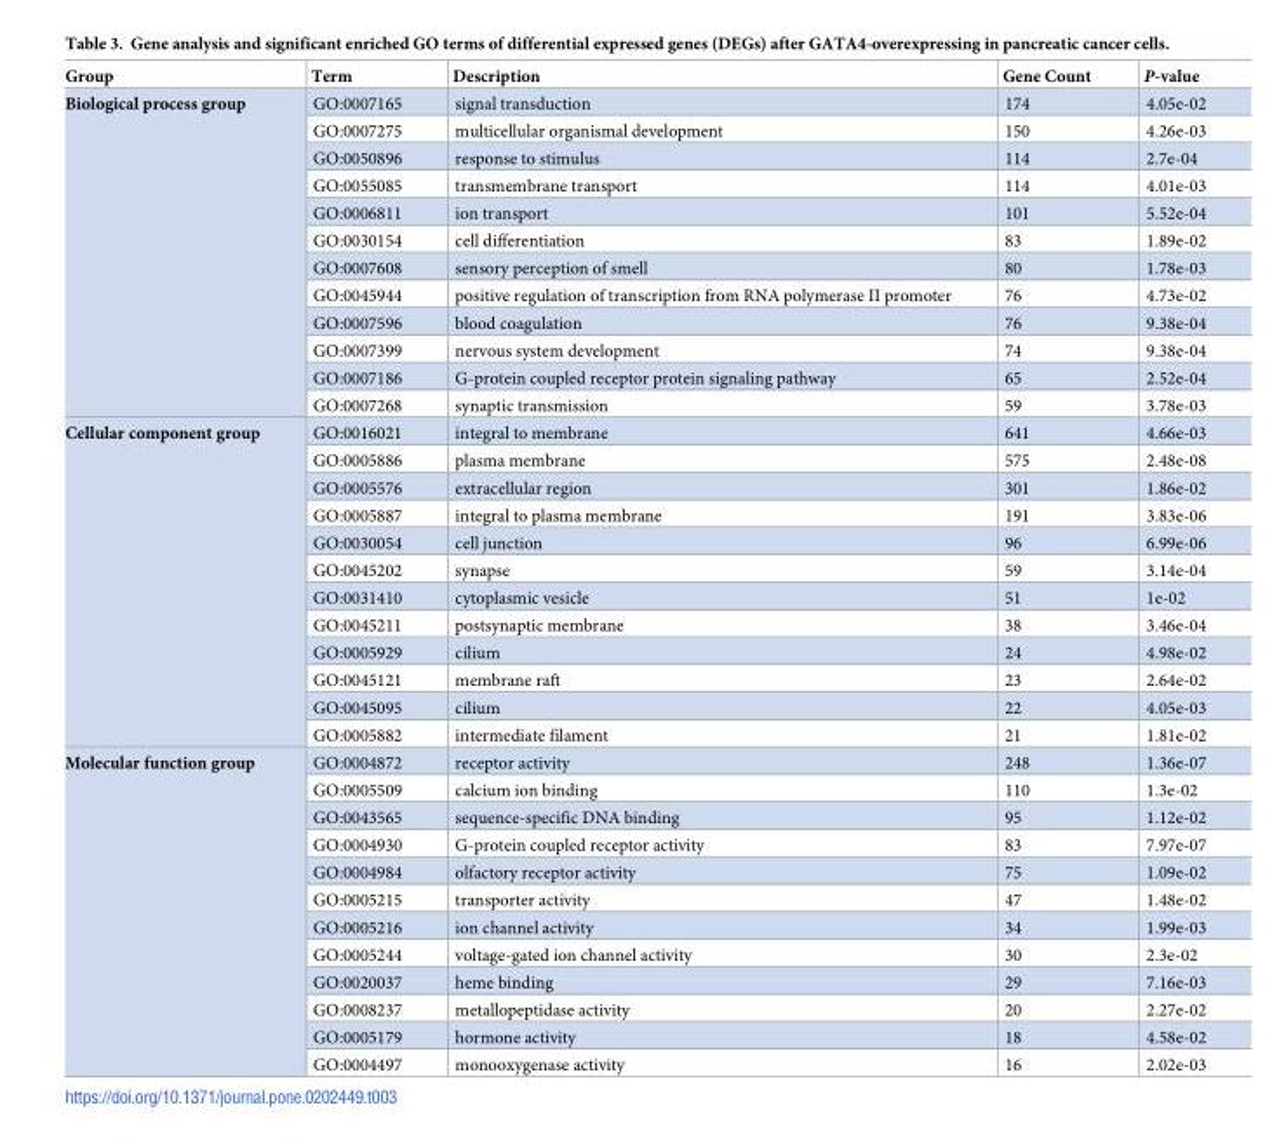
<table><thead><tr><td>Group</td><td>Term</td><td>Description</td><td>Gene Count</td><td>P-value</td></tr></thead><tbody><tr><td rowspan="12">Biological process group</td><td>GO:0007165</td><td>signal transduction</td><td>174</td><td>4.05e-02</td></tr><tr><td>GO:0007275</td><td>multicellular organismal development</td><td>150</td><td>4.26e-03</td></tr><tr><td>GO:0050896</td><td>response to stimulus</td><td>114</td><td>2.7e-04</td></tr><tr><td>GO:0055085</td><td>transmembrane transport</td><td>114</td><td>4.01e-03</td></tr><tr><td>GO:0006811</td><td>ion transport</td><td>101</td><td>5.52e-04</td></tr><tr><td>GO:0030154</td><td>cell differentiation</td><td>83</td><td>1.89e-02</td></tr><tr><td>GO:0007608</td><td>sensory perception of smell</td><td>80</td><td>1.78e-03</td></tr><tr><td>GO:0045944</td><td>positive regulation of transcription from RNA polymerase II promoter</td><td>76</td><td>4.73e-02</td></tr><tr><td>GO:0007596</td><td>blood coagulation</td><td>76</td><td>9.38e-04</td></tr><tr><td>GO:0007399</td><td>nervous system development</td><td>74</td><td>9.38e-04</td></tr><tr><td>GO:0007186</td><td>G-protein coupled receptor protein signaling pathway</td><td>65</td><td>2.52e-04</td></tr><tr><td>GO:0007268</td><td>synaptic transmission</td><td>59</td><td>3.78e-03</td></tr><tr><td rowspan="12">Cellular component group</td><td>GO:0016021</td><td>integral to membrane</td><td>641</td><td>4.66e-03</td></tr><tr><td>GO:0005886</td><td>plasma membrane</td><td>575</td><td>2.48e-08</td></tr><tr><td>GO:0005576</td><td>extracellular region</td><td>301</td><td>1.86e-02</td></tr><tr><td>GO:0005887</td><td>integral to plasma membrane</td><td>191</td><td>3.83e-06</td></tr><tr><td>GO:0030054</td><td>cell junction</td><td>96</td><td>6.99e-06</td></tr><tr><td>GO:0045202</td><td>synapse</td><td>59</td><td>3.14e-04</td></tr><tr><td>GO:0031410</td><td>cytoplasmic vesicle</td><td>51</td><td>1e-02</td></tr><tr><td>GO:0045211</td><td>postsynaptic membrane</td><td>38</td><td>3.46e-04</td></tr><tr><td>GO:0005929</td><td>cilium</td><td>24</td><td>4.98e-02</td></tr><tr><td>GO:0045121</td><td>membrane raft</td><td>23</td><td>2.64e-02</td></tr><tr><td>GO:0045095</td><td>cilium</td><td>22</td><td>4.05e-03</td></tr><tr><td>GO:0005882</td><td>intermediate filament</td><td>21</td><td>1.81e-02</td></tr><tr><td rowspan="12">Molecular function group</td><td>GO:0004872</td><td>receptor activity</td><td>248</td><td>1.36e-07</td></tr><tr><td>GO:0005509</td><td>calcium ion binding</td><td>110</td><td>1.3e-02</td></tr><tr><td>GO:0043565</td><td>sequence-specific DNA binding</td><td>95</td><td>1.12e-02</td></tr><tr><td>GO:0004930</td><td>G-protein coupled receptor activity</td><td>83</td><td>7.97e-07</td></tr><tr><td>GO:0004984</td><td>olfactory receptor activity</td><td>75</td><td>1.09e-02</td></tr><tr><td>GO:0005215</td><td>transporter activity</td><td>47</td><td>1.48e-02</td></tr><tr><td>GO:0005216</td><td>ion channel activity</td><td>34</td><td>1.99e-03</td></tr><tr><td>GO:0005244</td><td>voltage-gated ion channel activity</td><td>30</td><td>2.3e-02</td></tr><tr><td>GO:0020037</td><td>heme binding</td><td>29</td><td>7.16e-03</td></tr><tr><td>GO:0008237</td><td>metallopeptidase activity</td><td>20</td><td>2.27e-02</td></tr><tr><td>GO:0005179</td><td>hormone activity</td><td>18</td><td>4.58e-02</td></tr><tr><td>GO:0004497</td><td>monooxygenase activity</td><td>16</td><td>2.02e-03</td></tr></tbody></table>